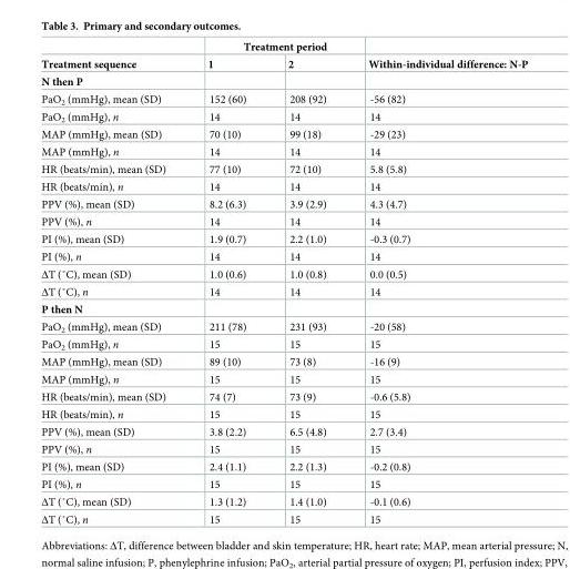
<table><thead><tr><td rowspan="2">Treatment sequence</td><td colspan="2">Treatment period</td><td rowspan="2">Within-individual difference: N-P</td></tr><tr><td>1</td><td>2</td></tr></thead><tbody><tr><td colspan="4">N then P</td></tr><tr><td>PaO<sub>2</sub> (mmHg), mean (SD)</td><td>152 (60)</td><td>208 (92)</td><td>-56 (82)</td></tr><tr><td>PaO<sub>2</sub> (mmHg), n</td><td>14</td><td>14</td><td>14</td></tr><tr><td>MAP (mmHg), mean (SD)</td><td>70 (10)</td><td>99 (18)</td><td>-29 (23)</td></tr><tr><td>MAP (mmHg), n</td><td>14</td><td>14</td><td>14</td></tr><tr><td>HR (beats/min), mean (SD)</td><td>77 (10)</td><td>72 (10)</td><td>5.8 (5.8)</td></tr><tr><td>HR (beats/min), n</td><td>14</td><td>14</td><td>14</td></tr><tr><td>PPV (%), mean (SD)</td><td>8.2 (6.3)</td><td>3.9 (2.9)</td><td>4.3 (4.7)</td></tr><tr><td>PPV (%), n</td><td>14</td><td>14</td><td>14</td></tr><tr><td>PI (%), mean (SD)</td><td>1.9 (0.7)</td><td>2.2 (1.0)</td><td>-0.3 (0.7)</td></tr><tr><td>PI (%), n</td><td>14</td><td>14</td><td>14</td></tr><tr><td>ΔT (˚C), mean (SD)</td><td>1.0 (0.6)</td><td>1.0 (0.8)</td><td>0.0 (0.5)</td></tr><tr><td>ΔT (˚C), n</td><td>14</td><td>14</td><td>14</td></tr><tr><td colspan="4">P then N</td></tr><tr><td>PaO<sub>2</sub> (mmHg), mean (SD)</td><td>211 (78)</td><td>231 (93)</td><td>-20 (58)</td></tr><tr><td>PaO<sub>2</sub> (mmHg), n</td><td>15</td><td>15</td><td>15</td></tr><tr><td>MAP (mmHg), mean (SD)</td><td>89 (10)</td><td>73 (8)</td><td>-16 (9)</td></tr><tr><td>MAP (mmHg), n</td><td>15</td><td>15</td><td>15</td></tr><tr><td>HR (beats/min), mean (SD)</td><td>74 (7)</td><td>73 (9)</td><td>-0.6 (5.8)</td></tr><tr><td>HR (beats/min), n</td><td>15</td><td>15</td><td>15</td></tr><tr><td>PPV (%), mean (SD)</td><td>3.8 (2.2)</td><td>6.5 (4.8)</td><td>2.7 (3.4)</td></tr><tr><td>PPV (%), n</td><td>15</td><td>15</td><td>15</td></tr><tr><td>PI (%), mean (SD)</td><td>2.4 (1.1)</td><td>2.2 (1.3)</td><td>-0.2 (0.8)</td></tr><tr><td>PI (%), n</td><td>15</td><td>15</td><td>15</td></tr><tr><td>ΔT (˚C), mean (SD)</td><td>1.3 (1.2)</td><td>1.4 (1.0)</td><td>-0.1 (0.6)</td></tr><tr><td>ΔT (˚C), n</td><td>15</td><td>15</td><td>15</td></tr></tbody></table>